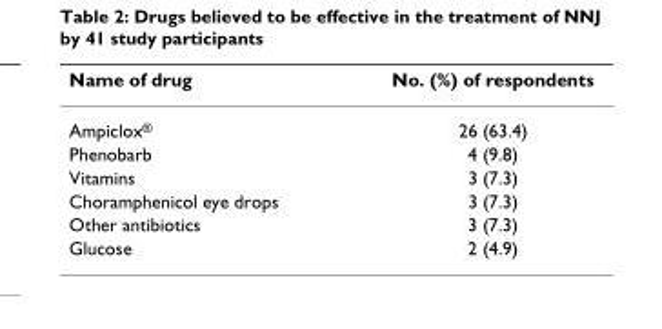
<table><thead><tr><td>Name of drug</td><td>No. (%) of respondents</td></tr></thead><tbody><tr><td>Ampiclox®</td><td>26 (63.4)</td></tr><tr><td>Phenobarb</td><td>4 (9.8)</td></tr><tr><td>Vitamins</td><td>3 (7.3)</td></tr><tr><td>Choramphenicol eye drops</td><td>3 (7.3)</td></tr><tr><td>Other antibiotics</td><td>3 (7.3)</td></tr><tr><td>Glucose</td><td>2 (4.9)</td></tr></tbody></table>